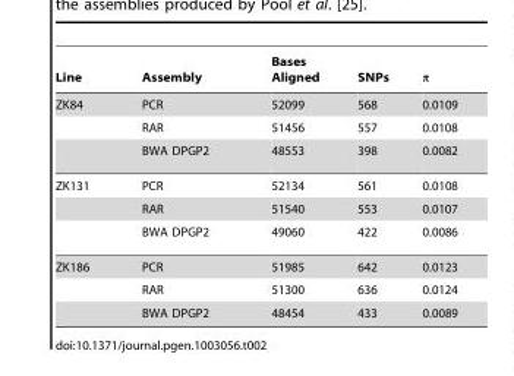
<table><thead><tr><td>Line</td><td>Assembly</td><td>Bases Aligned</td><td>SNPs</td><td>π</td></tr></thead><tbody><tr><td rowspan="3">ZK84</td><td>PCR</td><td>52099</td><td>568</td><td>0.0109</td></tr><tr><td>RAR</td><td>51456</td><td>557</td><td>0.0108</td></tr><tr><td>BWA DPGP2</td><td>48553</td><td>398</td><td>0.0082</td></tr><tr><td rowspan="3">ZK131</td><td>PCR</td><td>52134</td><td>561</td><td>0.0108</td></tr><tr><td>RAR</td><td>51540</td><td>553</td><td>0.0107</td></tr><tr><td>BWA DPGP2</td><td>49060</td><td>422</td><td>0.0086</td></tr><tr><td rowspan="3">ZK186</td><td>PCR</td><td>51985</td><td>642</td><td>0.0123</td></tr><tr><td>RAR</td><td>51300</td><td>636</td><td>0.0124</td></tr><tr><td>BWA DPGP2</td><td>48454</td><td>433</td><td>0.0089</td></tr></tbody></table>